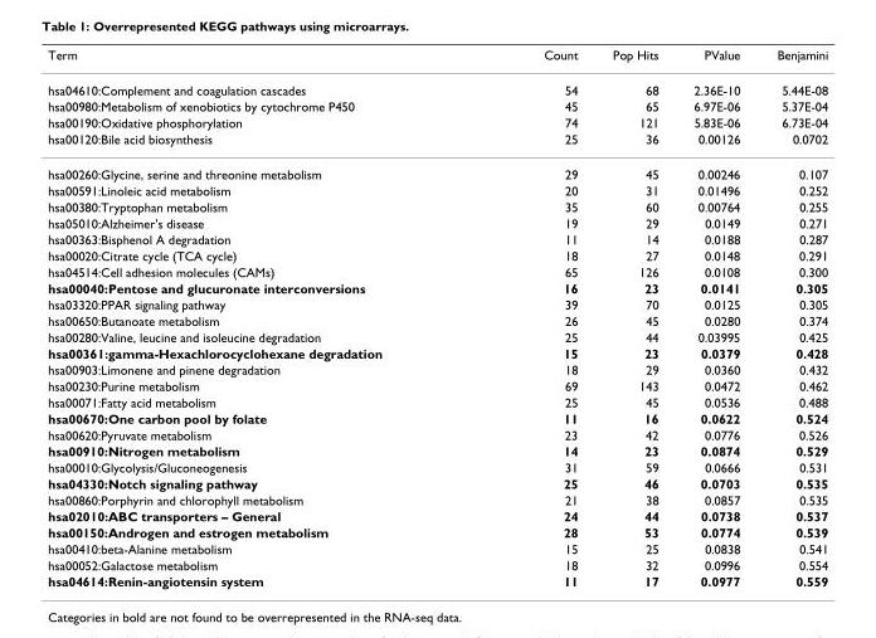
<table><thead><tr><td>Term</td><td>Count</td><td>Pop Hits</td><td>PValue</td><td>Benjamini</td></tr></thead><tbody><tr><td>hsa04610:Complement and coagulation cascades</td><td>54</td><td>68</td><td>2.36E-10</td><td>5.44E-08</td></tr><tr><td>hsa00980:Metabolism of xenobiotics by cytochrome P450</td><td>45</td><td>65</td><td>6.97E-06</td><td>5.37E-04</td></tr><tr><td>hsa00190:Oxidative phosphorylation</td><td>74</td><td>121</td><td>5.83E-06</td><td>6.73E-04</td></tr><tr><td>hsa00120:Bile acid biosynthesis</td><td>25</td><td>36</td><td>0.00126</td><td>0.0702</td></tr><tr><td>hsa00260:Glycine, serine and threonine metabolism</td><td>29</td><td>45</td><td>0.00246</td><td>0.107</td></tr><tr><td>hsa00591:Linoleic acid metabolism</td><td>20</td><td>31</td><td>0.01496</td><td>0.252</td></tr><tr><td>hsa00380:Tryptophan metabolism</td><td>35</td><td>60</td><td>0.00764</td><td>0.255</td></tr><tr><td>hsa05010:Alzheimer&#x27;s disease</td><td>19</td><td>29</td><td>0.0149</td><td>0.271</td></tr><tr><td>hsa00363:Bisphenol A degradation</td><td>11</td><td>14</td><td>0.0188</td><td>0.287</td></tr><tr><td>hsa00020:Citrate cycle (TCA cycle)</td><td>18</td><td>27</td><td>0.0148</td><td>0.291</td></tr><tr><td>hsa04514:Cell adhesion molecules (CAMs)</td><td>65</td><td>126</td><td>0.0108</td><td>0.300</td></tr><tr><td>hsa00040:Pentose and glucuronate interconversions</td><td>16</td><td>23</td><td>0.0141</td><td>0.305</td></tr><tr><td>hsa03320:PPAR signaling pathway</td><td>39</td><td>70</td><td>0.0125</td><td>0.305</td></tr><tr><td>hsa00650:Butanoate metabolism</td><td>26</td><td>45</td><td>0.0280</td><td>0.374</td></tr><tr><td>hsa00280:Valine, leucine and isoleucine degradation</td><td>25</td><td>44</td><td>0.03995</td><td>0.425</td></tr><tr><td>hsa00361:gamma-Hexachlorocyclohexane degradation</td><td>15</td><td>23</td><td>0.0379</td><td>0.428</td></tr><tr><td>hsa00903:Limonene and pinene degradation</td><td>18</td><td>29</td><td>0.0360</td><td>0.432</td></tr><tr><td>hsa00230:Purine metabolism</td><td>69</td><td>143</td><td>0.0472</td><td>0.462</td></tr><tr><td>hsa00071:Fatty acid metabolism</td><td>25</td><td>45</td><td>0.0536</td><td>0.488</td></tr><tr><td>hsa00670:One carbon pool by folate</td><td>11</td><td>16</td><td>0.0622</td><td>0.524</td></tr><tr><td>hsa00620:Pyruvate metabolism</td><td>23</td><td>42</td><td>0.0776</td><td>0.526</td></tr><tr><td>hsa00910:Nitrogen metabolism</td><td>14</td><td>23</td><td>0.0874</td><td>0.529</td></tr><tr><td>hsa00010:Glycolysis/Gluconeogenesis</td><td>31</td><td>59</td><td>0.0666</td><td>0.531</td></tr><tr><td>hsa04330:Notch signaling pathway</td><td>25</td><td>46</td><td>0.0703</td><td>0.535</td></tr><tr><td>hsa00860:Porphyrin and chlorophyll metabolism</td><td>21</td><td>38</td><td>0.0857</td><td>0.535</td></tr><tr><td>hsa02010:ABC transporters – General</td><td>24</td><td>44</td><td>0.0738</td><td>0.537</td></tr><tr><td>hsa00150:Androgen and estrogen metabolism</td><td>28</td><td>53</td><td>0.0774</td><td>0.539</td></tr><tr><td>hsa00410:beta-Alanine metabolism</td><td>15</td><td>25</td><td>0.0838</td><td>0.541</td></tr><tr><td>hsa00052:Galactose metabolism</td><td>18</td><td>32</td><td>0.0996</td><td>0.554</td></tr><tr><td>hsa04614:Renin-angiotensin system</td><td>11</td><td>17</td><td>0.0977</td><td>0.559</td></tr></tbody></table>